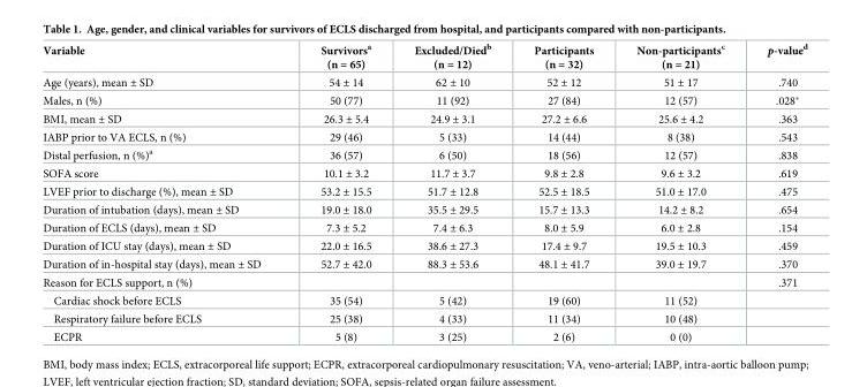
<table><thead><tr><td>Variable</td><td>Survivors<sup>a</sup> (n = 65)</td><td>Excluded/Died<sup>b</sup> (n = 12)</td><td>Participants (n = 32)</td><td>Non-participants<sup>c</sup> (n = 21)</td><td>p-value<sup>d</sup></td></tr></thead><tbody><tr><td>Age (years), mean ± SD</td><td>54 ± 14</td><td>62 ± 10</td><td>52 ± 12</td><td>51 ± 17</td><td>.740</td></tr><tr><td>Males, n (%)</td><td>50 (77)</td><td>11 (92)</td><td>27 (84)</td><td>12 (57)</td><td>.028*</td></tr><tr><td>BMI, mean ± SD</td><td>26.3 ± 5.4</td><td>24.9 ± 3.1</td><td>27.2 ± 6.6</td><td>25.6 ± 4.2</td><td>.363</td></tr><tr><td>IABP prior to VA ECLS, n (%)</td><td>29 (46)</td><td>5 (33)</td><td>14 (44)</td><td>8 (38)</td><td>.543</td></tr><tr><td>Distal perfusion, n (%)<sup>a</sup></td><td>36 (57)</td><td>6 (50)</td><td>18 (56)</td><td>12 (57)</td><td>.838</td></tr><tr><td>SOFA score</td><td>10.1 ± 3.2</td><td>11.7 ± 3.7</td><td>9.8 ± 2.8</td><td>9.6 ± 3.2</td><td>.619</td></tr><tr><td>LVEF prior to discharge (%), mean ± SD</td><td>53.2 ± 15.5</td><td>51.7 ± 12.8</td><td>52.5 ± 18.5</td><td>51.0 ± 17.0</td><td>.475</td></tr><tr><td>Duration of intubation (days), mean ± SD</td><td>19.0 ± 18.0</td><td>35.5 ± 29.5</td><td>15.7 ± 13.3</td><td>14.2 ± 8.2</td><td>.654</td></tr><tr><td>Duration of ECLS (days), mean ± SD</td><td>7.3 ± 5.2</td><td>7.4 ± 6.3</td><td>8.0 ± 5.9</td><td>6.0 ± 2.8</td><td>.154</td></tr><tr><td>Duration of ICU stay (days), mean ± SD</td><td>22.0 ± 16.5</td><td>38.6 ± 27.3</td><td>17.4 ± 9.7</td><td>19.5 ± 10.3</td><td>.459</td></tr><tr><td>Duration of in-hospital stay (days), mean ± SD</td><td>52.7 ± 42.0</td><td>88.3 ± 53.6</td><td>48.1 ± 41.7</td><td>39.0 ± 19.7</td><td>.370</td></tr><tr><td>Reason for ECLS support, n (%)</td><td></td><td></td><td></td><td></td><td>.371</td></tr><tr><td>Cardiac shock before ECLS</td><td>35 (54)</td><td>5 (42)</td><td>19 (60)</td><td>11 (52)</td><td></td></tr><tr><td>Respiratory failure before ECLS</td><td>25 (38)</td><td>4 (33)</td><td>11 (34)</td><td>10 (48)</td><td></td></tr><tr><td>ECPR</td><td>5 (8)</td><td>3 (25)</td><td>2 (6)</td><td>0 (0)</td><td></td></tr></tbody></table>